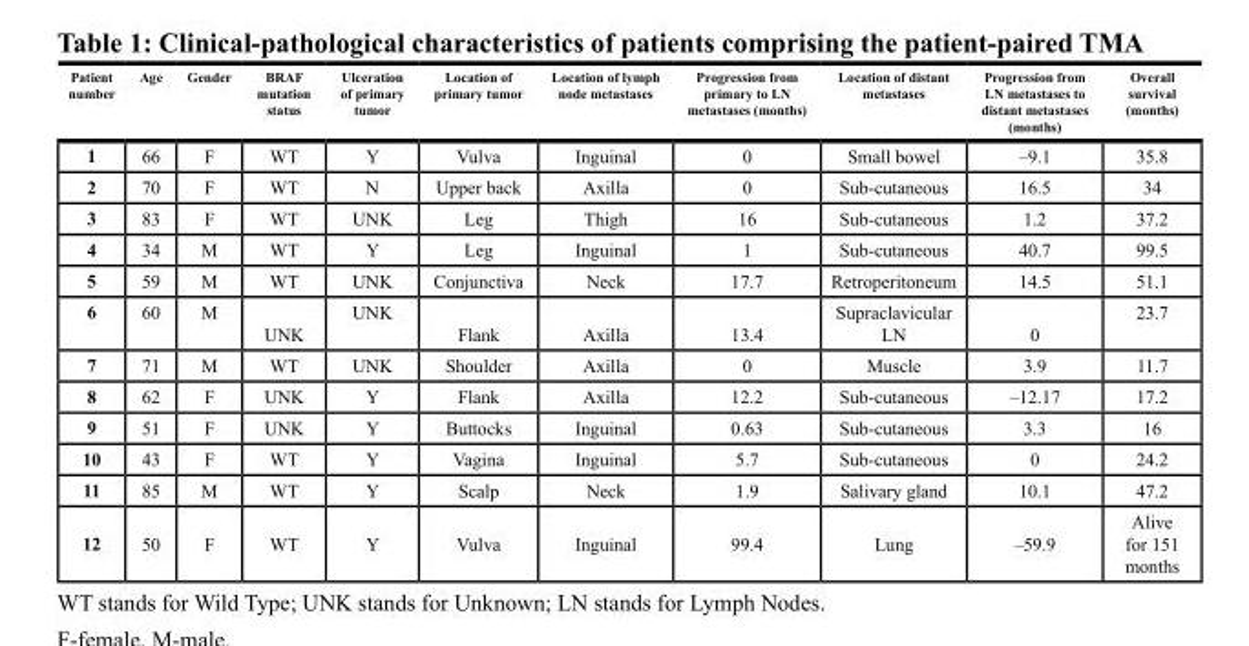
<table><thead><tr><td>Patient number</td><td>Age</td><td>Gender</td><td>BRAF mutation status</td><td>Ulceration of primary tumor</td><td>Location of primary tumor</td><td>Location of lymph node metastases</td><td>Progression from primary to LN metastases (months)</td><td>Location of distant metastases</td><td>Progression from LN metastases to distant metastases (months)</td><td>Overall survival (months)</td></tr></thead><tbody><tr><td>1</td><td>66</td><td>F</td><td>WT</td><td>Y</td><td>Vulva</td><td>Inguinal</td><td>0</td><td>Small bowel</td><td>–9.1</td><td>35.8</td></tr><tr><td>2</td><td>70</td><td>F</td><td>WT</td><td>N</td><td>Upper back</td><td>Axilla</td><td>0</td><td>Sub-cutaneous</td><td>16.5</td><td>34</td></tr><tr><td>3</td><td>83</td><td>F</td><td>WT</td><td>UNK</td><td>Leg</td><td>Thigh</td><td>16</td><td>Sub-cutaneous</td><td>1.2</td><td>37.2</td></tr><tr><td>4</td><td>34</td><td>M</td><td>WT</td><td>Y</td><td>Leg</td><td>Inguinal</td><td>1</td><td>Sub-cutaneous</td><td>40.7</td><td>99.5</td></tr><tr><td>5</td><td>59</td><td>M</td><td>WT</td><td>UNK</td><td>Conjunctiva</td><td>Neck</td><td>17.7</td><td>Retroperitoneum</td><td>14.5</td><td>51.1</td></tr><tr><td>6</td><td>60</td><td>M</td><td>UNK</td><td>UNK</td><td>Flank</td><td>Axilla</td><td>13.4</td><td>Supraclavicular LN</td><td>0</td><td>23.7</td></tr><tr><td>7</td><td>71</td><td>M</td><td>WT</td><td>UNK</td><td>Shoulder</td><td>Axilla</td><td>0</td><td>Muscle</td><td>3.9</td><td>11.7</td></tr><tr><td>8</td><td>62</td><td>F</td><td>UNK</td><td>Y</td><td>Flank</td><td>Axilla</td><td>12.2</td><td>Sub-cutaneous</td><td>–12.17</td><td>17.2</td></tr><tr><td>9</td><td>51</td><td>F</td><td>UNK</td><td>Y</td><td>Buttocks</td><td>Inguinal</td><td>0.63</td><td>Sub-cutaneous</td><td>3.3</td><td>16</td></tr><tr><td>10</td><td>43</td><td>F</td><td>WT</td><td>Y</td><td>Vagina</td><td>Inguinal</td><td>5.7</td><td>Sub-cutaneous</td><td>0</td><td>24.2</td></tr><tr><td>11</td><td>85</td><td>M</td><td>WT</td><td>Y</td><td>Scalp</td><td>Neck</td><td>1.9</td><td>Salivary gland</td><td>10.1</td><td>47.2</td></tr><tr><td>12</td><td>50</td><td>F</td><td>WT</td><td>Y</td><td>Vulva</td><td>Inguinal</td><td>99.4</td><td>Lung</td><td>–59.9</td><td>Alive for 151 months</td></tr></tbody></table>